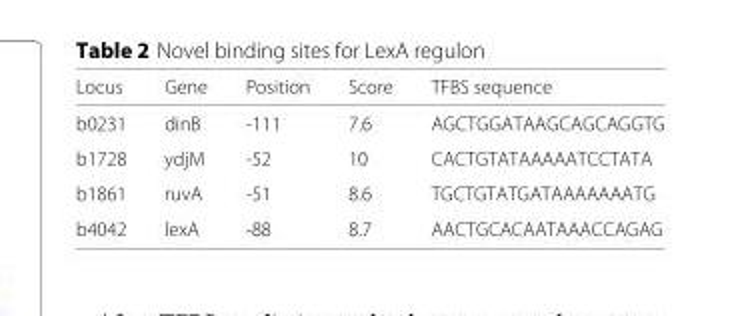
<table><thead><tr><td>Locus</td><td>Gene</td><td>Position</td><td>Score</td><td>TFBS sequence</td></tr></thead><tbody><tr><td>b0231</td><td>dinB</td><td>-111</td><td>7.6</td><td>AGCTGGATAAGCAGCAGGTG</td></tr><tr><td>b1728</td><td>ydjM</td><td>-52</td><td>10</td><td>CACTGTATAAAAATCCTATA</td></tr><tr><td>b1861</td><td>ruvA</td><td>-51</td><td>8.6</td><td>TGCTGTATGATAAAAAAATG</td></tr><tr><td>b4042</td><td>lexA</td><td>-88</td><td>8.7</td><td>AACTGCACAATAAACCAGAG</td></tr></tbody></table>